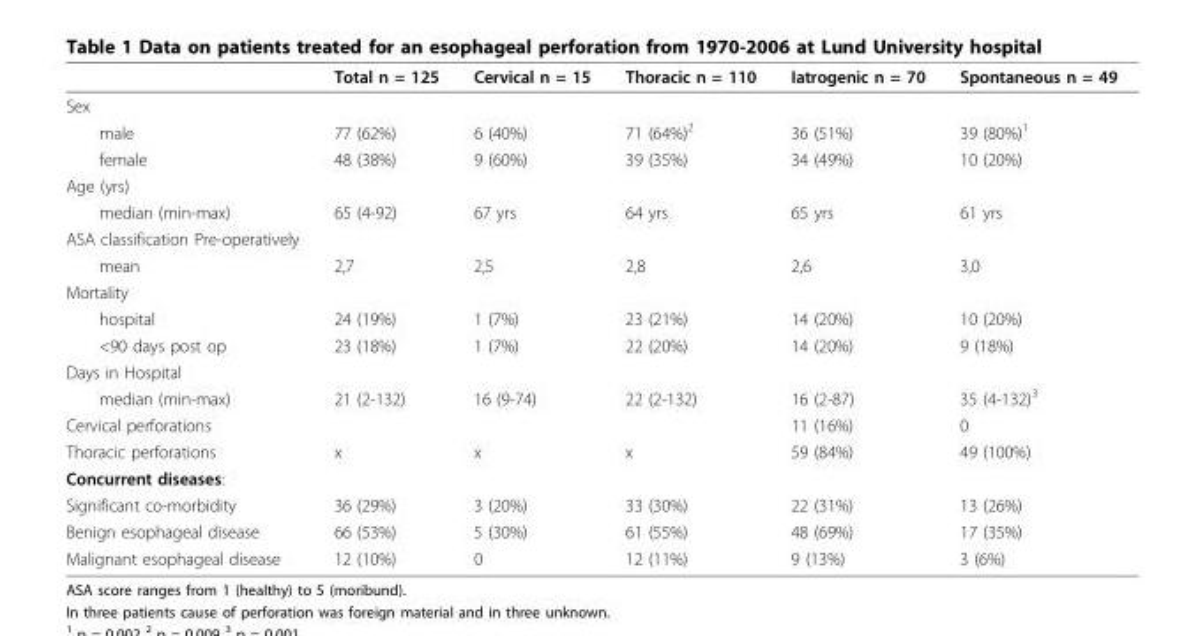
<table><thead><tr><td></td><td>Total n = 125</td><td>Cervical n = 15</td><td>Thoracic n = 110</td><td>Iatrogenic n = 70</td><td>Spontaneous n = 49</td></tr></thead><tbody><tr><td colspan="6">Sex</td></tr><tr><td>male</td><td>77 (62%)</td><td>6 (40%)</td><td>71 (64%)<sup>2</sup></td><td>36 (51%)</td><td>39 (80%)<sup>1</sup></td></tr><tr><td>female</td><td>48 (38%)</td><td>9 (60%)</td><td>39 (35%)</td><td>34 (49%)</td><td>10 (20%)</td></tr><tr><td colspan="6">Age (yrs)</td></tr><tr><td>median (min-max)</td><td>65 (4-92)</td><td>67 yrs</td><td>64 yrs</td><td>65 yrs</td><td>61 yrs</td></tr><tr><td colspan="6">ASA classification Pre-operatively</td></tr><tr><td>mean</td><td>2,7</td><td>2,5</td><td>2,8</td><td>2,6</td><td>3,0</td></tr><tr><td colspan="6">Mortality</td></tr><tr><td>hospital</td><td>24 (19%)</td><td>1 (7%)</td><td>23 (21%)</td><td>14 (20%)</td><td>10 (20%)</td></tr><tr><td>&lt;90 days post op</td><td>23 (18%)</td><td>1 (7%)</td><td>22 (20%)</td><td>14 (20%)</td><td>9 (18%)</td></tr><tr><td colspan="6">Days in Hospital</td></tr><tr><td>median (min-max)</td><td>21 (2-132)</td><td>16 (9-74)</td><td>22 (2-132)</td><td>16 (2-87)</td><td>35 (4-132)<sup>3</sup></td></tr><tr><td>Cervical perforations</td><td></td><td></td><td></td><td>11 (16%)</td><td>0</td></tr><tr><td>Thoracic perforations</td><td>x</td><td>x</td><td>x</td><td>59 (84%)</td><td>49 (100%)</td></tr><tr><td colspan="6">Concurrent diseases:</td></tr><tr><td>Significant co-morbidity</td><td>36 (29%)</td><td>3 (20%)</td><td>33 (30%)</td><td>22 (31%)</td><td>13 (26%)</td></tr><tr><td>Benign esophageal disease</td><td>66 (53%)</td><td>5 (30%)</td><td>61 (55%)</td><td>48 (69%)</td><td>17 (35%)</td></tr><tr><td>Malignant esophageal disease</td><td>12 (10%)</td><td>0</td><td>12 (11%)</td><td>9 (13%)</td><td>3 (6%)</td></tr></tbody></table>